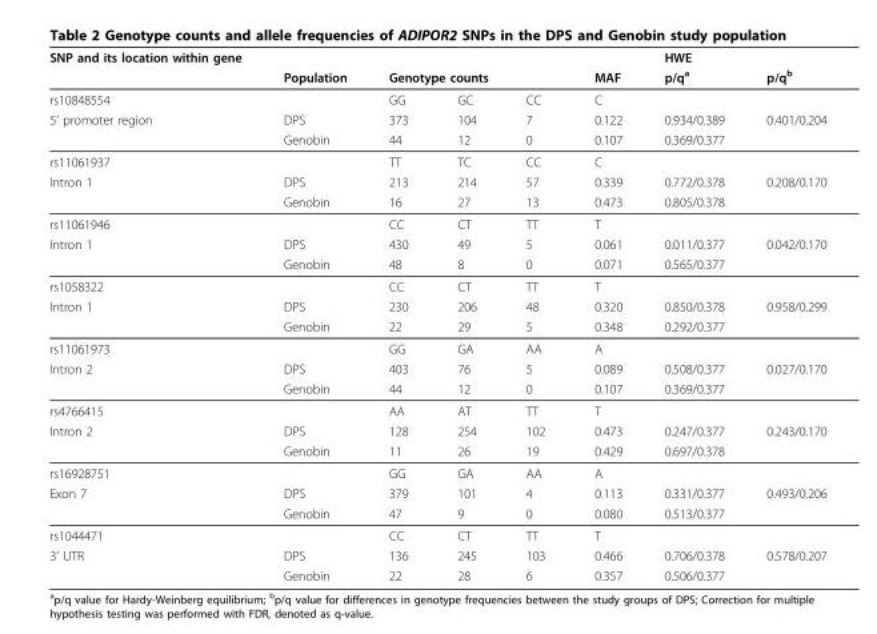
<table><thead><tr><td rowspan="2">SNP and its location within gene</td><td rowspan="2">Population</td><td></td><td></td><td></td><td rowspan="2">MAF</td><td colspan="2">HWE</td></tr><tr><td colspan="3">Genotype counts</td><td>p/q<sup>a</sup></td><td>p/q<sup>b</sup></td></tr></thead><tbody><tr><td>rs10848554</td><td></td><td>GG</td><td>GC</td><td>CC</td><td>C</td><td></td><td></td></tr><tr><td rowspan="2">5’ promoter region</td><td>DPS</td><td>373</td><td>104</td><td>7</td><td>0.122</td><td>0.934/0.389</td><td>0.401/0.204</td></tr><tr><td>Genobin</td><td>44</td><td>12</td><td>0</td><td>0.107</td><td>0.369/0.377</td><td></td></tr><tr><td>rs11061937</td><td></td><td>TT</td><td>TC</td><td>CC</td><td>C</td><td></td><td></td></tr><tr><td rowspan="2">Intron 1</td><td>DPS</td><td>213</td><td>214</td><td>57</td><td>0.339</td><td>0.772/0.378</td><td>0.208/0.170</td></tr><tr><td>Genobin</td><td>16</td><td>27</td><td>13</td><td>0.473</td><td>0.805/0.378</td><td></td></tr><tr><td>rs11061946</td><td></td><td>CC</td><td>CT</td><td>TT</td><td>T</td><td></td><td></td></tr><tr><td rowspan="2">Intron 1</td><td>DPS</td><td>430</td><td>49</td><td>5</td><td>0.061</td><td>0.011/0.377</td><td>0.042/0.170</td></tr><tr><td>Genobin</td><td>48</td><td>8</td><td>0</td><td>0.071</td><td>0.565/0.377</td><td></td></tr><tr><td>rs1058322</td><td></td><td>CC</td><td>CT</td><td>TT</td><td>T</td><td></td><td></td></tr><tr><td rowspan="2">Intron 1</td><td>DPS</td><td>230</td><td>206</td><td>48</td><td>0.320</td><td>0.850/0.378</td><td>0.958/0.299</td></tr><tr><td>Genobin</td><td>22</td><td>29</td><td>5</td><td>0.348</td><td>0.292/0.377</td><td></td></tr><tr><td>rs11061973</td><td></td><td>GG</td><td>GA</td><td>AA</td><td>A</td><td></td><td></td></tr><tr><td rowspan="2">Intron 2</td><td>DPS</td><td>403</td><td>76</td><td>5</td><td>0.089</td><td>0.508/0.377</td><td>0.027/0.170</td></tr><tr><td>Genobin</td><td>44</td><td>12</td><td>0</td><td>0.107</td><td>0.369/0.377</td><td></td></tr><tr><td>rs4766415</td><td></td><td>AA</td><td>AT</td><td>TT</td><td>T</td><td></td><td></td></tr><tr><td rowspan="2">Intron 2</td><td>DPS</td><td>128</td><td>254</td><td>102</td><td>0.473</td><td>0.247/0.377</td><td>0.243/0.170</td></tr><tr><td>Genobin</td><td>11</td><td>26</td><td>19</td><td>0.429</td><td>0.697/0.378</td><td></td></tr><tr><td>rs16928751</td><td></td><td>GG</td><td>GA</td><td>AA</td><td>A</td><td></td><td></td></tr><tr><td rowspan="2">Exon 7</td><td>DPS</td><td>379</td><td>101</td><td>4</td><td>0.113</td><td>0.331/0.377</td><td>0.493/0.206</td></tr><tr><td>Genobin</td><td>47</td><td>9</td><td>0</td><td>0.080</td><td>0.513/0.377</td><td></td></tr><tr><td>rs1044471</td><td></td><td>CC</td><td>CT</td><td>TT</td><td>T</td><td></td><td></td></tr><tr><td rowspan="2">3’ UTR</td><td>DPS</td><td>136</td><td>245</td><td>103</td><td>0.466</td><td>0.706/0.378</td><td>0.578/0.207</td></tr><tr><td>Genobin</td><td>22</td><td>28</td><td>6</td><td>0.357</td><td>0.506/0.377</td><td></td></tr></tbody></table>